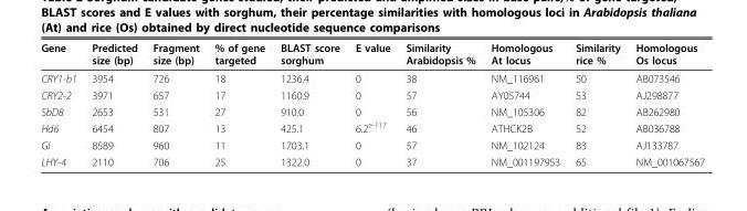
<table><tbody><tr><td>Gene</td><td>Predicted size (bp)</td><td>Fragment size (bp)</td><td>% of gene targeted</td><td>BLAST score sorghum</td><td>E value</td><td>Similarity Arabidopsis %</td><td>Homologous At locus</td><td>Similarity rice %</td><td>Homologous Os locus</td></tr><tr><td>CRY1-b1</td><td>3954</td><td>726</td><td>18</td><td>1236.4</td><td>0</td><td>38</td><td>NM_116961</td><td>50</td><td>AB073546</td></tr><tr><td>CRY2-2</td><td>3971</td><td>657</td><td>17</td><td>1160.9</td><td>0</td><td>57</td><td>AY05744</td><td>53</td><td>AJ298877</td></tr><tr><td>SbD8</td><td>2653</td><td>531</td><td>27</td><td>910.0</td><td>0</td><td>56</td><td>NM_105306</td><td>82</td><td>AB262980</td></tr><tr><td>Hd6</td><td>6454</td><td>807</td><td>13</td><td>425.1</td><td>6.2<sup>e-117</sup></td><td>46</td><td>ATHCK2B</td><td>52</td><td>AB036788</td></tr><tr><td>GI</td><td>8589</td><td>960</td><td>11</td><td>1703.1</td><td>0</td><td>57</td><td>NM_102124</td><td>83</td><td>AJ133787</td></tr><tr><td>LHY-4</td><td>2110</td><td>706</td><td>25</td><td>1322.0</td><td>0</td><td>37</td><td>NM_001197953</td><td>65</td><td>NM_001067567</td></tr></tbody></table>